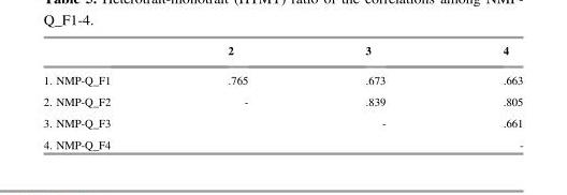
<table><thead><tr><td></td><td>2</td><td>3</td><td>4</td></tr></thead><tbody><tr><td>1. NMP-Q_F1</td><td>.765</td><td>.673</td><td>.663</td></tr><tr><td>2. NMP-Q_F2</td><td>-</td><td>.839</td><td>.805</td></tr><tr><td>3. NMP-Q_F3</td><td></td><td>-</td><td>.661</td></tr><tr><td>4. NMP-Q_F4</td><td></td><td></td><td>-</td></tr></tbody></table>